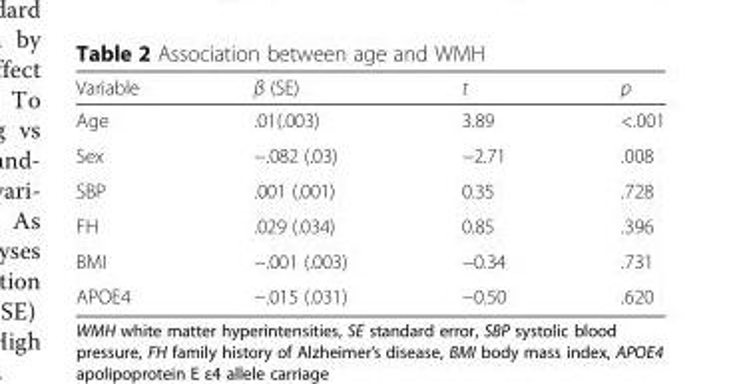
<table><thead><tr><td>Variable</td><td>β (SE)</td><td>t</td><td>p</td></tr></thead><tbody><tr><td>Age</td><td>.01(.003)</td><td>3.89</td><td>&lt;.001</td></tr><tr><td>Sex</td><td>−.082 (.03)</td><td>−2.71</td><td>.008</td></tr><tr><td>SBP</td><td>.001 (.001)</td><td>0.35</td><td>.728</td></tr><tr><td>FH</td><td>.029 (.034)</td><td>0.85</td><td>.396</td></tr><tr><td>BMI</td><td>−.001 (.003)</td><td>−0.34</td><td>.731</td></tr><tr><td>APOE4</td><td>−.015 (.031)</td><td>−0.50</td><td>.620</td></tr></tbody></table>